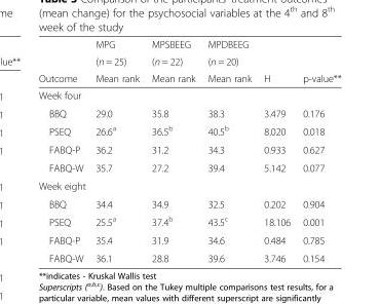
<table><thead><tr><td rowspan="3">Outcome</td><td rowspan="3">MPG (n = 25) Mean rank</td><td rowspan="3">MPSBEEG (n = 22) Mean rank</td><td rowspan="3">MPDBEEG (n = 20) Mean rank</td><td rowspan="3">H</td><td rowspan="3">p-value**</td></tr><tr></tr><tr></tr></thead><tbody><tr><td colspan="6">Week four</td></tr><tr><td>BBQ</td><td>29.0</td><td>35.8</td><td>38.3</td><td>3.479</td><td>0.176</td></tr><tr><td>PSEQ</td><td>26.6<sup>a</sup></td><td>36.5<sup>b</sup></td><td>40.5<sup>b</sup></td><td>8.020</td><td>0.018</td></tr><tr><td>FABQ-P</td><td>36.2</td><td>31.2</td><td>34.3</td><td>0.933</td><td>0.627</td></tr><tr><td>FABQ-W</td><td>35.7</td><td>27.2</td><td>39.4</td><td>5.142</td><td>0.077</td></tr><tr><td colspan="6">Week eight</td></tr><tr><td>BBQ</td><td>34.4</td><td>34.9</td><td>32.5</td><td>0.202</td><td>0.904</td></tr><tr><td>PSEQ</td><td>25.5<sup>a</sup></td><td>37.4<sup>b</sup></td><td>43.5<sup>c</sup></td><td>18.106</td><td>0.001</td></tr><tr><td>FABQ-P</td><td>35.4</td><td>31.9</td><td>34.6</td><td>0.484</td><td>0.785</td></tr><tr><td>FABQ-W</td><td>36.1</td><td>28.8</td><td>39.6</td><td>3.746</td><td>0.154</td></tr></tbody></table>